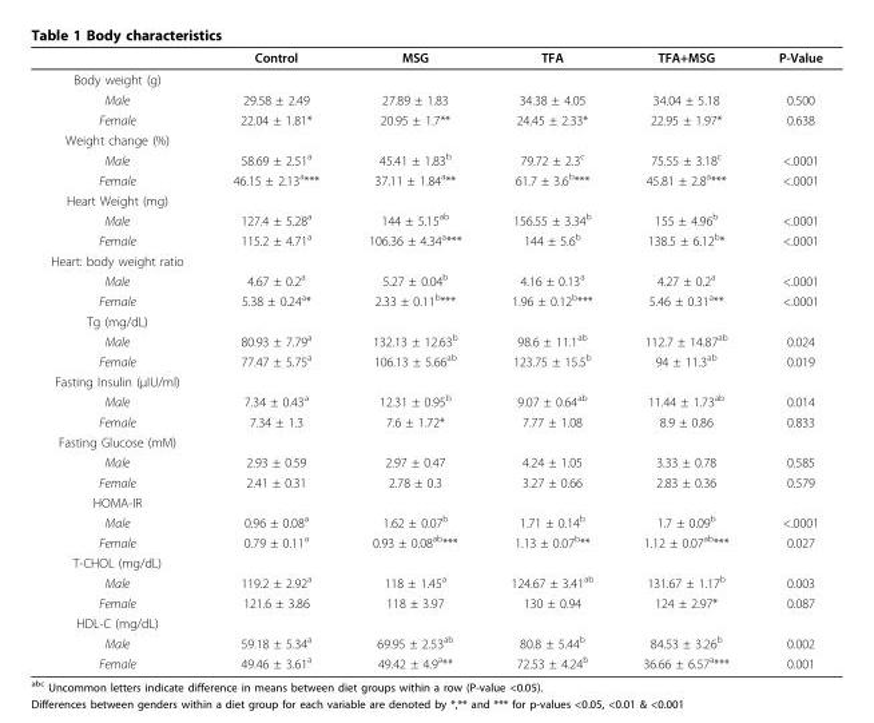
<table><thead><tr><td></td><td>Control</td><td>MSG</td><td>TFA</td><td>TFA+MSG</td><td>P-Value</td></tr></thead><tbody><tr><td colspan="6">Body weight (g)</td></tr><tr><td>Male</td><td>29.58 ± 2.49</td><td>27.89 ± 1.83</td><td>34.38 ± 4.05</td><td>34.04 ± 5.18</td><td>0.500</td></tr><tr><td>Female</td><td>22.04 ± 1.81*</td><td>20.95 ± 1.7**</td><td>24.45 ± 2.33*</td><td>22.95 ± 1.97*</td><td>0.638</td></tr><tr><td colspan="6">Weight change (%)</td></tr><tr><td>Male</td><td>58.69 ± 2.51<sup>a</sup></td><td>45.41 ± 1.83<sup>b</sup></td><td>79.72 ± 2.3<sup>c</sup></td><td>75.55 ± 3.18<sup>c</sup></td><td>&lt;.0001</td></tr><tr><td>Female</td><td>46.15 ± 2.13<sup>a</sup>***</td><td>37.11 ± 1.84<sup>a</sup>**</td><td>61.7 ± 3.6<sup>b</sup>***</td><td>45.81 ± 2.8<sup>a</sup>***</td><td>&lt;.0001</td></tr><tr><td colspan="6">Heart Weight (mg)</td></tr><tr><td>Male</td><td>127.4 ± 5.28<sup>a</sup></td><td>144 ± 5.15<sup>ab</sup></td><td>156.55 ± 3.34<sup>b</sup></td><td>155 ± 4.96<sup>b</sup></td><td>&lt;.0001</td></tr><tr><td>Female</td><td>115.2 ± 4.71<sup>a</sup></td><td>106.36 ± 4.34<sup>a</sup>***</td><td>144 ± 5.6<sup>b</sup></td><td>138.5 ± 6.12<sup>b</sup>*</td><td>&lt;.0001</td></tr><tr><td colspan="6">Heart: body weight ratio</td></tr><tr><td>Male</td><td>4.67 ± 0.2<sup>a</sup></td><td>5.27 ± 0.04<sup>b</sup></td><td>4.16 ± 0.13<sup>a</sup></td><td>4.27 ± 0.2<sup>a</sup></td><td>&lt;.0001</td></tr><tr><td>Female</td><td>5.38 ± 0.24<sup>a</sup>*</td><td>2.33 ± 0.11<sup>b</sup>***</td><td>1.96 ± 0.12<sup>b</sup>***</td><td>5.46 ± 0.31<sup>a</sup>**</td><td>&lt;.0001</td></tr><tr><td colspan="6">Tg (mg/dL)</td></tr><tr><td>Male</td><td>80.93 ± 7.79<sup>a</sup></td><td>132.13 ± 12.63<sup>b</sup></td><td>98.6 ± 11.1<sup>ab</sup></td><td>112.7 ± 14.87<sup>ab</sup></td><td>0.024</td></tr><tr><td>Female</td><td>77.47 ± 5.75<sup>a</sup></td><td>106.13 ± 5.66<sup>ab</sup></td><td>123.75 ± 15.5<sup>b</sup></td><td>94 ± 11.3<sup>ab</sup></td><td>0.019</td></tr><tr><td colspan="6">Fasting Insulin (μIU/ml)</td></tr><tr><td>Male</td><td>7.34 ± 0.43<sup>a</sup></td><td>12.31 ± 0.95<sup>b</sup></td><td>9.07 ± 0.64<sup>ab</sup></td><td>11.44 ± 1.73<sup>ab</sup></td><td>0.014</td></tr><tr><td>Female</td><td>7.34 ± 1.3</td><td>7.6 ± 1.72*</td><td>7.77 ± 1.08</td><td>8.9 ± 0.86</td><td>0.833</td></tr><tr><td colspan="6">Fasting Glucose (mM)</td></tr><tr><td>Male</td><td>2.93 ± 0.59</td><td>2.97 ± 0.47</td><td>4.24 ± 1.05</td><td>3.33 ± 0.78</td><td>0.585</td></tr><tr><td>Female</td><td>2.41 ± 0.31</td><td>2.78 ± 0.3</td><td>3.27 ± 0.66</td><td>2.83 ± 0.36</td><td>0.579</td></tr><tr><td colspan="6">HOMA-IR</td></tr><tr><td>Male</td><td>0.96 ± 0.08<sup>a</sup></td><td>1.62 ± 0.07<sup>b</sup></td><td>1.71 ± 0.14<sup>b</sup></td><td>1.7 ± 0.09<sup>b</sup></td><td>&lt;.0001</td></tr><tr><td>Female</td><td>0.79 ± 0.11<sup>a</sup></td><td>0.93 ± 0.08<sup>ab</sup>***</td><td>1.13 ± 0.07<sup>b</sup>**</td><td>1.12 ± 0.07<sup>ab</sup>***</td><td>0.027</td></tr><tr><td colspan="6">T-CHOL (mg/dL)</td></tr><tr><td>Male</td><td>119.2 ± 2.92<sup>a</sup></td><td>118 ± 1.45<sup>a</sup></td><td>124.67 ± 3.41<sup>ab</sup></td><td>131.67 ± 1.17<sup>b</sup></td><td>0.003</td></tr><tr><td>Female</td><td>121.6 ± 3.86</td><td>118 ± 3.97</td><td>130 ± 0.94</td><td>124 ± 2.97*</td><td>0.087</td></tr><tr><td colspan="6">HDL-C (mg/dL)</td></tr><tr><td>Male</td><td>59.18 ± 5.34<sup>a</sup></td><td>69.95 ± 2.53<sup>ab</sup></td><td>80.8 ± 5.44<sup>b</sup></td><td>84.53 ± 3.26<sup>b</sup></td><td>0.002</td></tr><tr><td>Female</td><td>49.46 ± 3.61<sup>a</sup></td><td>49.42 ± 4.9<sup>a</sup>**</td><td>72.53 ± 4.24<sup>b</sup></td><td>36.66 ± 6.57<sup>a</sup>***</td><td>0.001</td></tr></tbody></table>